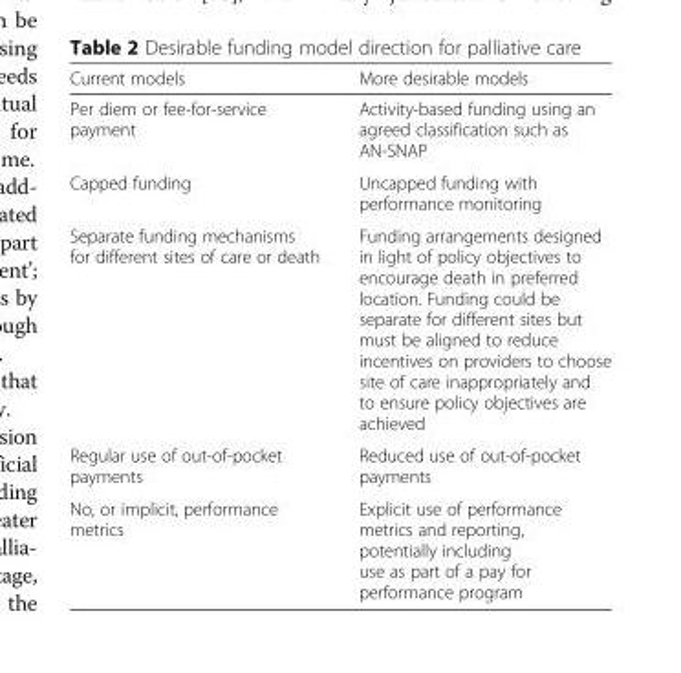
<table><thead><tr><td>Current models</td><td>More desirable models</td></tr></thead><tbody><tr><td>Per diem or fee-for-service payment</td><td>Activity-based funding using an agreed classification such as AN-SNAP</td></tr><tr><td>Capped funding</td><td>Uncapped funding with performance monitoring</td></tr><tr><td>Separate funding mechanisms for different sites of care or death</td><td>Funding arrangements designed in light of policy objectives to encourage death in preferred location. Funding could be separate for different sites but must be aligned to reduce incentives on providers to choose site of care inappropriately and to ensure policy objectives are achieved</td></tr><tr><td>Regular use of out-of-pocket payments</td><td>Reduced use of out-of-pocket payments</td></tr><tr><td>No, or implicit, performance metrics</td><td>Explicit use of performance metrics and reporting, potentially including use as part of a pay for performance program</td></tr></tbody></table>